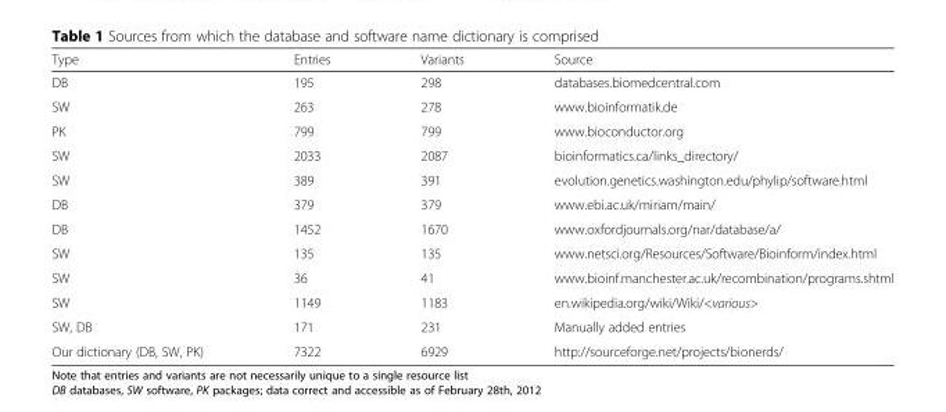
<table><thead><tr><td>Type</td><td>Entries</td><td>Variants</td><td>Source</td></tr></thead><tbody><tr><td>DB</td><td>195</td><td>298</td><td>databases.biomedcentral.com</td></tr><tr><td>SW</td><td>263</td><td>278</td><td>www.bioinformatik.de</td></tr><tr><td>PK</td><td>799</td><td>799</td><td>www.bioconductor.org</td></tr><tr><td>SW</td><td>2033</td><td>2087</td><td>bioinformatics.ca/links_directory/</td></tr><tr><td>SW</td><td>389</td><td>391</td><td>evolution.genetics.washington.edu/phylip/software.html</td></tr><tr><td>DB</td><td>379</td><td>379</td><td>www.ebi.ac.uk/miriam/main/</td></tr><tr><td>DB</td><td>1452</td><td>1670</td><td>www.oxfordjournals.org/nar/database/a/</td></tr><tr><td>SW</td><td>135</td><td>135</td><td>www.netsci.org/Resources/Software/Bioinform/index.html</td></tr><tr><td>SW</td><td>36</td><td>41</td><td>www.bioinf.manchester.ac.uk/recombination/programs.shtml</td></tr><tr><td>SW</td><td>1149</td><td>1183</td><td>en.wikipedia.org/wiki/Wiki/&lt;various&gt;</td></tr><tr><td>SW, DB</td><td>171</td><td>231</td><td>Manually added entries</td></tr><tr><td>Our dictionary (DB, SW, PK)</td><td>7322</td><td>6929</td><td>http://sourceforge.net/projects/bionerds/</td></tr></tbody></table>